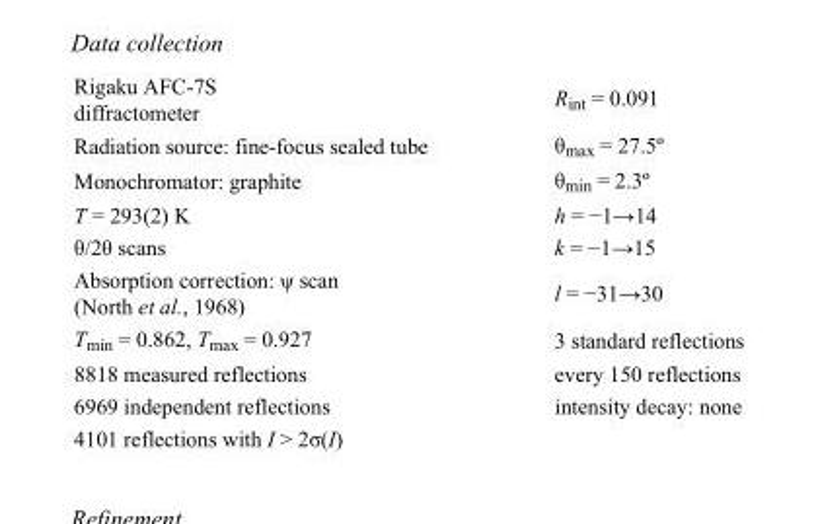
<table><tbody><tr><td>Rigaku AFC-7S diffractometer</td><td>R<sub>int</sub> = 0.091</td></tr><tr><td>Radiation source: fine-focus sealed tube</td><td>θ<sub>max</sub> = 27.5º</td></tr><tr><td>Monochromator: graphite</td><td>θ<sub>min</sub> = 2.3º</td></tr><tr><td>T = 293(2) K</td><td>h = −1→14</td></tr><tr><td>θ/2θ scans</td><td>k = −1→15</td></tr><tr><td>Absorption correction: ψ scan (North et al., 1968)</td><td>l = −31→30</td></tr><tr><td>T<sub>min</sub> = 0.862, T<sub>max</sub> = 0.927</td><td>3 standard reflections</td></tr><tr><td>8818 measured reflections</td><td>every 150 reflections</td></tr><tr><td>6969 independent reflections</td><td>intensity decay: none</td></tr><tr><td>4101 reflections with I &gt; 2σ(I)</td><td></td></tr></tbody></table>